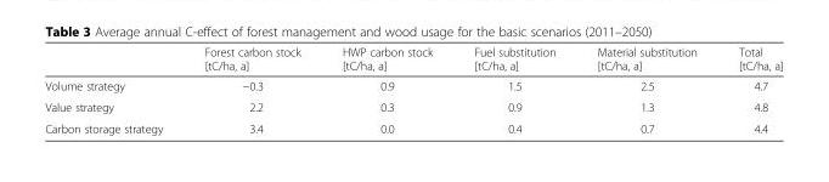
<table><thead><tr><td></td><td>Forest carbon stock [tC/ha, a]</td><td>HWP carbon stock [tC/ha, a]</td><td>Fuel substitution [tC/ha, a]</td><td>Material substitution [tC/ha, a]</td><td>Total [tC/ha, a]</td></tr></thead><tbody><tr><td>Volume strategy</td><td>−0.3</td><td>0.9</td><td>1.5</td><td>2.5</td><td>4.7</td></tr><tr><td>Value strategy</td><td>2.2</td><td>0.3</td><td>0.9</td><td>1.3</td><td>4.8</td></tr><tr><td>Carbon storage strategy</td><td>3.4</td><td>0.0</td><td>0.4</td><td>0.7</td><td>4.4</td></tr></tbody></table>